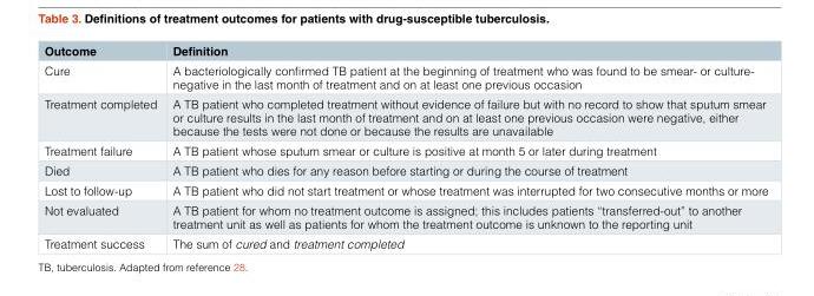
<table><thead><tr><td>Outcome</td><td>Definition</td></tr></thead><tbody><tr><td>Cure</td><td>A bacteriologically confirmed TB patient at the beginning of treatment who was found to be smear- or culture- negative in the last month of treatment and on at least one previous occasion</td></tr><tr><td>Treatment completed</td><td>A TB patient who completed treatment without evidence of failure but with no record to show that sputum smear or culture results in the last month of treatment and on at least one previous occasion were negative, either because the tests were not done or because the results are unavailable</td></tr><tr><td>Treatment failure</td><td>A TB patient whose sputum smear or culture is positive at month 5 or later during treatment</td></tr><tr><td>Died</td><td>A TB patient who dies for any reason before starting or during the course of treatment</td></tr><tr><td>Lost to follow-up</td><td>A TB patient who did not start treatment or whose treatment was interrupted for two consecutive months or more</td></tr><tr><td>Not evaluated</td><td>A TB patient for whom no treatment outcome is assigned; this includes patients “transferred-out” to another treatment unit as well as patients for whom the treatment outcome is unknown to the reporting unit</td></tr><tr><td>Treatment success</td><td>The sum of cured and treatment completed</td></tr></tbody></table>